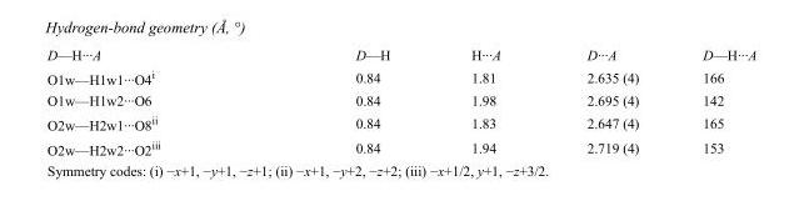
<table><tbody><tr><td>D—H···A</td><td>D—H</td><td>H···A</td><td>D···A</td><td>D—H···A</td></tr><tr><td>O1w—H1w1···O4<sup>i</sup></td><td>0.84</td><td>1.81</td><td>2.635 (4)</td><td>166</td></tr><tr><td>O1w—H1w2···O6</td><td>0.84</td><td>1.98</td><td>2.695 (4)</td><td>142</td></tr><tr><td>O2w—H2w1···O8<sup>ii</sup></td><td>0.84</td><td>1.83</td><td>2.647 (4)</td><td>165</td></tr><tr><td>O2w—H2w2···O2<sup>iii</sup></td><td>0.84</td><td>1.94</td><td>2.719 (4)</td><td>153</td></tr></tbody></table>